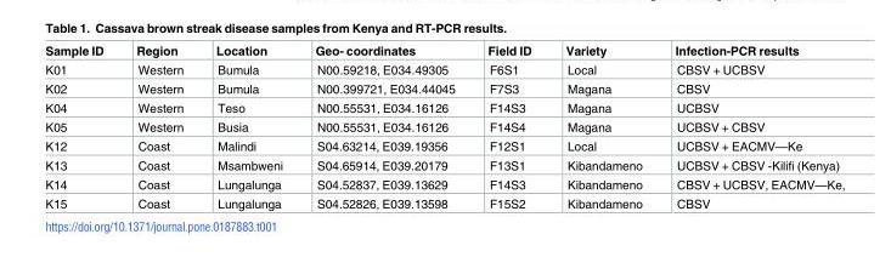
<table><thead><tr><td>Sample ID</td><td>Region</td><td>Location</td><td>Geo- coordinates</td><td>Field ID</td><td>Variety</td><td>Infection-PCR results</td></tr></thead><tbody><tr><td>K01</td><td>Western</td><td>Bumula</td><td>N00.59218, E034.49305</td><td>F6S1</td><td>Local</td><td>CBSV + UCBSV</td></tr><tr><td>K02</td><td>Western</td><td>Bumula</td><td>N00.399721, E034.44045</td><td>F7S3</td><td>Magana</td><td>CBSV</td></tr><tr><td>K04</td><td>Western</td><td>Teso</td><td>N00.55531, E034.16126</td><td>F14S3</td><td>Magana</td><td>UCBSV</td></tr><tr><td>K05</td><td>Western</td><td>Busia</td><td>N00.55531, E034.16126</td><td>F14S4</td><td>Magana</td><td>UCBSV + CBSV</td></tr><tr><td>K12</td><td>Coast</td><td>Malindi</td><td>S04.63214, E039.19356</td><td>F12S1</td><td>Local</td><td>UCBSV + EACMV—Ke</td></tr><tr><td>K13</td><td>Coast</td><td>Msambweni</td><td>S04.65914, E039.20179</td><td>F13S1</td><td>Kibandameno</td><td>UCBSV + CBSV -Kilifi (Kenya)</td></tr><tr><td>K14</td><td>Coast</td><td>Lungalunga</td><td>S04.52837, E039.13629</td><td>F14S3</td><td>Kibandameno</td><td>CBSV + UCBSV, EACMV—Ke,</td></tr><tr><td>K15</td><td>Coast</td><td>Lungalunga</td><td>S04.52826, E039.13598</td><td>F15S2</td><td>Kibandameno</td><td>CBSV</td></tr></tbody></table>